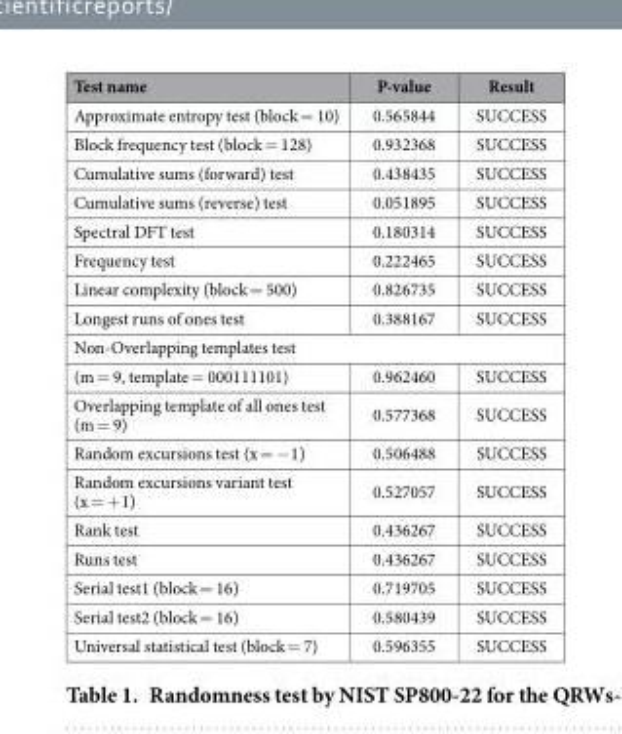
<table><thead><tr><td>Test name</td><td>P-value</td><td>Result</td></tr></thead><tbody><tr><td>Approximate entropy test (block = 10)</td><td>0.565844</td><td>SUCCESS</td></tr><tr><td>Block frequency test (block = 128)</td><td>0.932368</td><td>SUCCESS</td></tr><tr><td>Cumulative sums (forward) test</td><td>0.438435</td><td>SUCCESS</td></tr><tr><td>Cumulative sums (reverse) test</td><td>0.051895</td><td>SUCCESS</td></tr><tr><td>Spectral DFT test</td><td>0.180314</td><td>SUCCESS</td></tr><tr><td>Frequency test</td><td>0.222465</td><td>SUCCESS</td></tr><tr><td>Linear complexity (block = 500)</td><td>0.826735</td><td>SUCCESS</td></tr><tr><td>Longest runs of ones test</td><td>0.388167</td><td>SUCCESS</td></tr><tr><td colspan="3">Non-Overlapping templates test</td></tr><tr><td>(m = 9, template = 000111101)</td><td>0.962460</td><td>SUCCESS</td></tr><tr><td>Overlapping template of all ones test (m = 9)</td><td>0.577368</td><td>SUCCESS</td></tr><tr><td>Random excursions test (x = − 1)</td><td>0.506488</td><td>SUCCESS</td></tr><tr><td>Random excursions variant test (x = + 1)</td><td>0.527057</td><td>SUCCESS</td></tr><tr><td>Rank test</td><td>0.436267</td><td>SUCCESS</td></tr><tr><td>Runs test</td><td>0.436267</td><td>SUCCESS</td></tr><tr><td>Serial test1 (block = 16)</td><td>0.719705</td><td>SUCCESS</td></tr><tr><td>Serial test2 (block = 16)</td><td>0.580439</td><td>SUCCESS</td></tr><tr><td>Universal statistical test (block = 7)</td><td>0.596355</td><td>SUCCESS</td></tr></tbody></table>